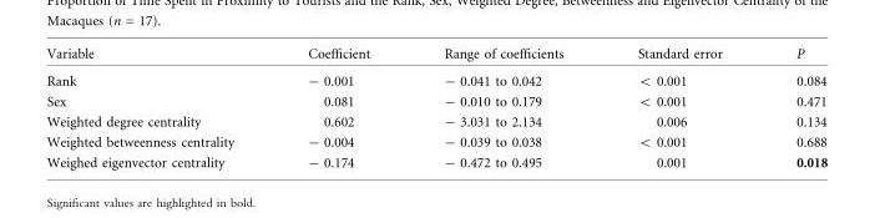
<table><thead><tr><td>Variable</td><td>Coefficient</td><td>Range of coefficients</td><td>Standard error</td><td>P</td></tr></thead><tbody><tr><td>Rank</td><td>- 0.001</td><td>- 0.041 to 0.042</td><td>&lt; 0.001</td><td>0.084</td></tr><tr><td>Sex</td><td>0.081</td><td>- 0.010 to 0.179</td><td>&lt; 0.001</td><td>0.471</td></tr><tr><td>Weighted degree centrality</td><td>0.602</td><td>- 3.031 to 2.134</td><td>0.006</td><td>0.134</td></tr><tr><td>Weighted betweenness centrality</td><td>- 0.004</td><td>- 0.039 to 0.038</td><td>&lt; 0.001</td><td>0.688</td></tr><tr><td>Weighed eigenvector centrality</td><td>- 0.174</td><td>- 0.472 to 0.495</td><td>0.001</td><td>0.018</td></tr></tbody></table>